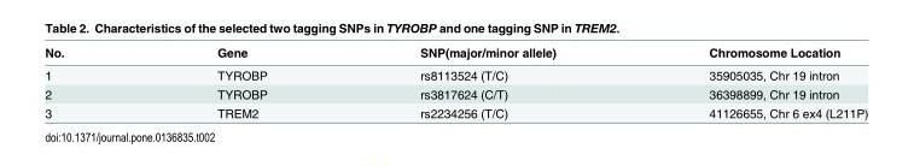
<table><thead><tr><td>No.</td><td>Gene</td><td>SNP(major/minor allele)</td><td>Chromosome Location</td></tr></thead><tbody><tr><td>1</td><td>TYROBP</td><td>rs8113524 (T/C)</td><td>35905035, Chr 19 intron</td></tr><tr><td>2</td><td>TYROBP</td><td>rs3817624 (C/T)</td><td>36398899, Chr 19 intron</td></tr><tr><td>3</td><td>TREM2</td><td>rs2234256 (T/C)</td><td>41126655, Chr 6 ex4 (L211P)</td></tr></tbody></table>